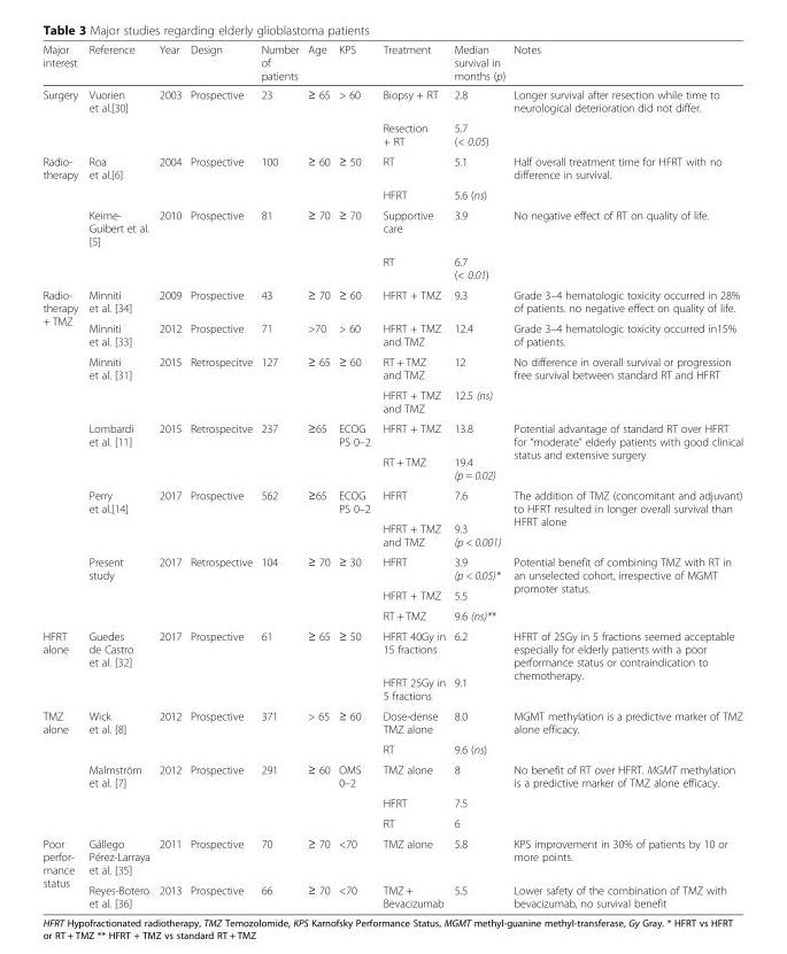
<table><thead><tr><td>Major interest</td><td>Reference</td><td>Year</td><td>Design</td><td>Number of patients</td><td>Age</td><td>KPS</td><td>Treatment</td><td>Median survival in months (p)</td><td>Notes</td></tr></thead><tbody><tr><td rowspan="2">Surgery</td><td>Vuorien et al.[30]</td><td>2003</td><td>Prospective</td><td>23</td><td>≥ 65</td><td>&gt; 60</td><td>Biopsy + RT</td><td>2.8</td><td rowspan="2">Longer survival after resection while time to neurological deterioration did not differ.</td></tr><tr><td></td><td></td><td></td><td></td><td></td><td></td><td>Resection + RT</td><td>5.7 (&lt; 0.05)</td></tr><tr><td rowspan="4">Radio- therapy</td><td>Roa et al.[6]</td><td>2004</td><td>Prospective</td><td>100</td><td>≥ 60</td><td>≥ 50</td><td>RT</td><td>5.1</td><td rowspan="2">Half overall treatment time for HFRT with no difference in survival.</td></tr><tr><td></td><td></td><td></td><td></td><td></td><td></td><td>HFRT</td><td>5.6 (ns)</td></tr><tr><td>Keime- Guibert et al. [5]</td><td>2010</td><td>Prospective</td><td>81</td><td>≥ 70</td><td>≥ 70</td><td>Supportive care</td><td>3.9</td><td rowspan="2">No negative effect of RT on quality of life.</td></tr><tr><td></td><td></td><td></td><td></td><td></td><td></td><td>RT</td><td>6.7 (&lt; 0.01)</td></tr><tr><td rowspan="11">Radio- therapy + TMZ</td><td>Minniti et al. [34]</td><td>2009</td><td>Prospective</td><td>43</td><td>≥ 70</td><td>≥ 60</td><td>HFRT + TMZ</td><td>9.3</td><td>Grade 3–4 hematologic toxicity occurred in 28% of patients. no negative effect on quality of life.</td></tr><tr><td>Minniti et al. [33]</td><td>2012</td><td>Prospective</td><td>71</td><td>&gt;70</td><td>&gt; 60</td><td>HFRT + TMZ and TMZ</td><td>12.4</td><td>Grade 3–4 hematologic toxicity occurred in15% of patients.</td></tr><tr><td>Minniti et al. [31]</td><td>2015</td><td>Retrospecitve</td><td>127</td><td>≥ 65</td><td>≥ 60</td><td>RT + TMZ and TMZ</td><td>12</td><td rowspan="2">No difference in overall survival or progression free survival between standard RT and HFRT</td></tr><tr><td></td><td></td><td></td><td></td><td></td><td></td><td>HFRT + TMZ and TMZ</td><td>12.5 (ns)</td></tr><tr><td>Lombardi et al. [11]</td><td>2015</td><td>Retrospecitve</td><td>237</td><td>≥65</td><td>ECOG PS 0–2</td><td>HFRT + TMZ</td><td>13.8</td><td rowspan="2">Potential advantage of standard RT over HFRT for “moderate” elderly patients with good clinical status and extensive surgery</td></tr><tr><td></td><td></td><td></td><td></td><td></td><td></td><td>RT + TMZ</td><td>19.4 (p = 0.02)</td></tr><tr><td>Perry et al.[14]</td><td>2017</td><td>Prospective</td><td>562</td><td>≥65</td><td>ECOG PS 0–2</td><td>HFRT</td><td>7.6</td><td rowspan="2">The addition of TMZ (concomitant and adjuvant) to HFRT resulted in longer overall survival than HFRT alone</td></tr><tr><td></td><td></td><td></td><td></td><td></td><td></td><td>HFRT + TMZ and TMZ</td><td>9.3 (p &lt; 0.001)</td></tr><tr><td>Present study</td><td>2017</td><td>Retrospective</td><td>104</td><td>≥ 70</td><td>≥ 30</td><td>HFRT</td><td>3.9 (p &lt; 0.05)*</td><td rowspan="3">Potential benefit of combining TMZ with RT in an unselected cohort, irrespective of MGMT promoter status.</td></tr><tr><td></td><td></td><td></td><td></td><td></td><td></td><td>HFRT + TMZ</td><td>5.5</td></tr><tr><td></td><td></td><td></td><td></td><td></td><td></td><td>RT + TMZ</td><td>9.6 (ns)**</td></tr><tr><td rowspan="2">HFRT alone</td><td>Guedes de Castro et al. [32]</td><td>2017</td><td>Prospective</td><td>61</td><td>≥ 65</td><td>≥ 50</td><td>HFRT 40Gy in 15 fractions</td><td>6.2</td><td rowspan="2">HFRT of 25Gy in 5 fractions seemed acceptable especially for elderly patients with a poor performance status or contraindication to chemotherapy.</td></tr><tr><td></td><td></td><td></td><td></td><td></td><td></td><td>HFRT 25Gy in 5 fractions</td><td>9.1</td></tr><tr><td rowspan="5">TMZ alone</td><td>Wick et al. [8]</td><td>2012</td><td>Prospective</td><td>371</td><td>&gt; 65</td><td>≥ 60</td><td>Dose-dense TMZ alone</td><td>8.0</td><td rowspan="2">MGMT methylation is a predictive marker of TMZ alone efficacy.</td></tr><tr><td></td><td></td><td></td><td></td><td></td><td></td><td>RT</td><td>9.6 (ns)</td></tr><tr><td>Malmström et al. [7]</td><td>2012</td><td>Prospective</td><td>291</td><td>≥ 60</td><td>OMS 0–2</td><td>TMZ alone</td><td>8</td><td rowspan="3">No benefit of RT over HFRT. MGMT methylation is a predictive marker of TMZ alone efficacy.</td></tr><tr><td></td><td></td><td></td><td></td><td></td><td></td><td>HFRT</td><td>7.5</td></tr><tr><td></td><td></td><td></td><td></td><td></td><td></td><td>RT</td><td>6</td></tr><tr><td rowspan="2">Poor perfor- mance status</td><td>Gállego Pérez-Larraya et al. [35]</td><td>2011</td><td>Prospective</td><td>70</td><td>≥ 70</td><td>&lt;70</td><td>TMZ alone</td><td>5.8</td><td>KPS improvement in 30% of patients by 10 or more points.</td></tr><tr><td>Reyes-Botero et al. [36]</td><td>2013</td><td>Prospective</td><td>66</td><td>≥ 70</td><td>&lt;70</td><td>TMZ + Bevacizumab</td><td>5.5</td><td>Lower safety of the combination of TMZ with bevacizumab, no survival benefit</td></tr></tbody></table>